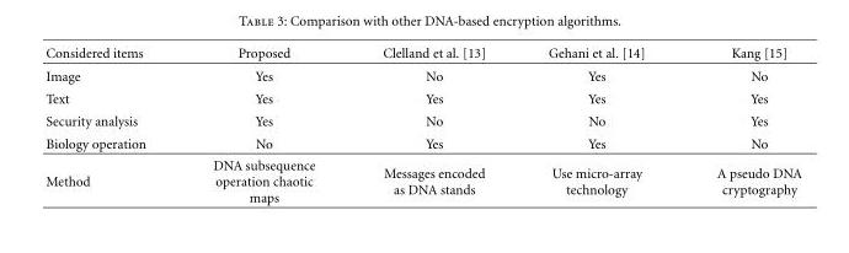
<table><thead><tr><td>Considered items</td><td>Proposed</td><td>Clelland et al. [13]</td><td>Gehani et al. [14]</td><td>Kang [15]</td></tr></thead><tbody><tr><td>Image</td><td>Yes</td><td>No</td><td>Yes</td><td>No</td></tr><tr><td>Text</td><td>Yes</td><td>Yes</td><td>Yes</td><td>Yes</td></tr><tr><td>Security analysis</td><td>Yes</td><td>No</td><td>No</td><td>Yes</td></tr><tr><td>Biology operation</td><td>No</td><td>Yes</td><td>Yes</td><td>No</td></tr><tr><td>Method</td><td>DNA subsequence operation chaotic maps</td><td>Messages encoded as DNA stands</td><td>Use micro-array technology</td><td>A pseudo DNA cryptography</td></tr></tbody></table>